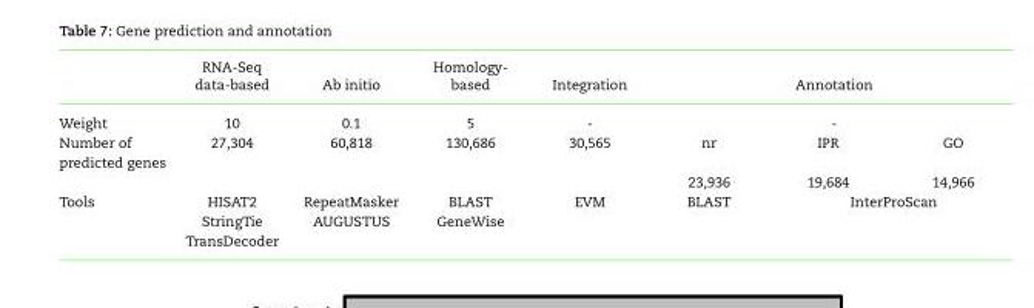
<table><thead><tr><td rowspan="3">Weight Number of predicted genes</td><td rowspan="3">RNA-Seq data-based 10 27,304</td><td rowspan="3">Ab initio 0.1 60,818</td><td rowspan="3">Homology- based 5 130,686</td><td rowspan="3">Integration - 30,565</td><td rowspan="2" colspan="3">Annotation -</td></tr><tr></tr><tr><td>nr</td><td>IPR</td><td>GO</td></tr></thead><tbody><tr><td></td><td></td><td></td><td></td><td></td><td>23,936</td><td>19,684</td><td>14,966</td></tr><tr><td>Tools</td><td>HISAT2 StringTie TransDecoder</td><td>RepeatMasker AUGUSTUS</td><td>BLAST GeneWise</td><td>EVM</td><td>BLAST</td><td colspan="2">InterProScan</td></tr></tbody></table>